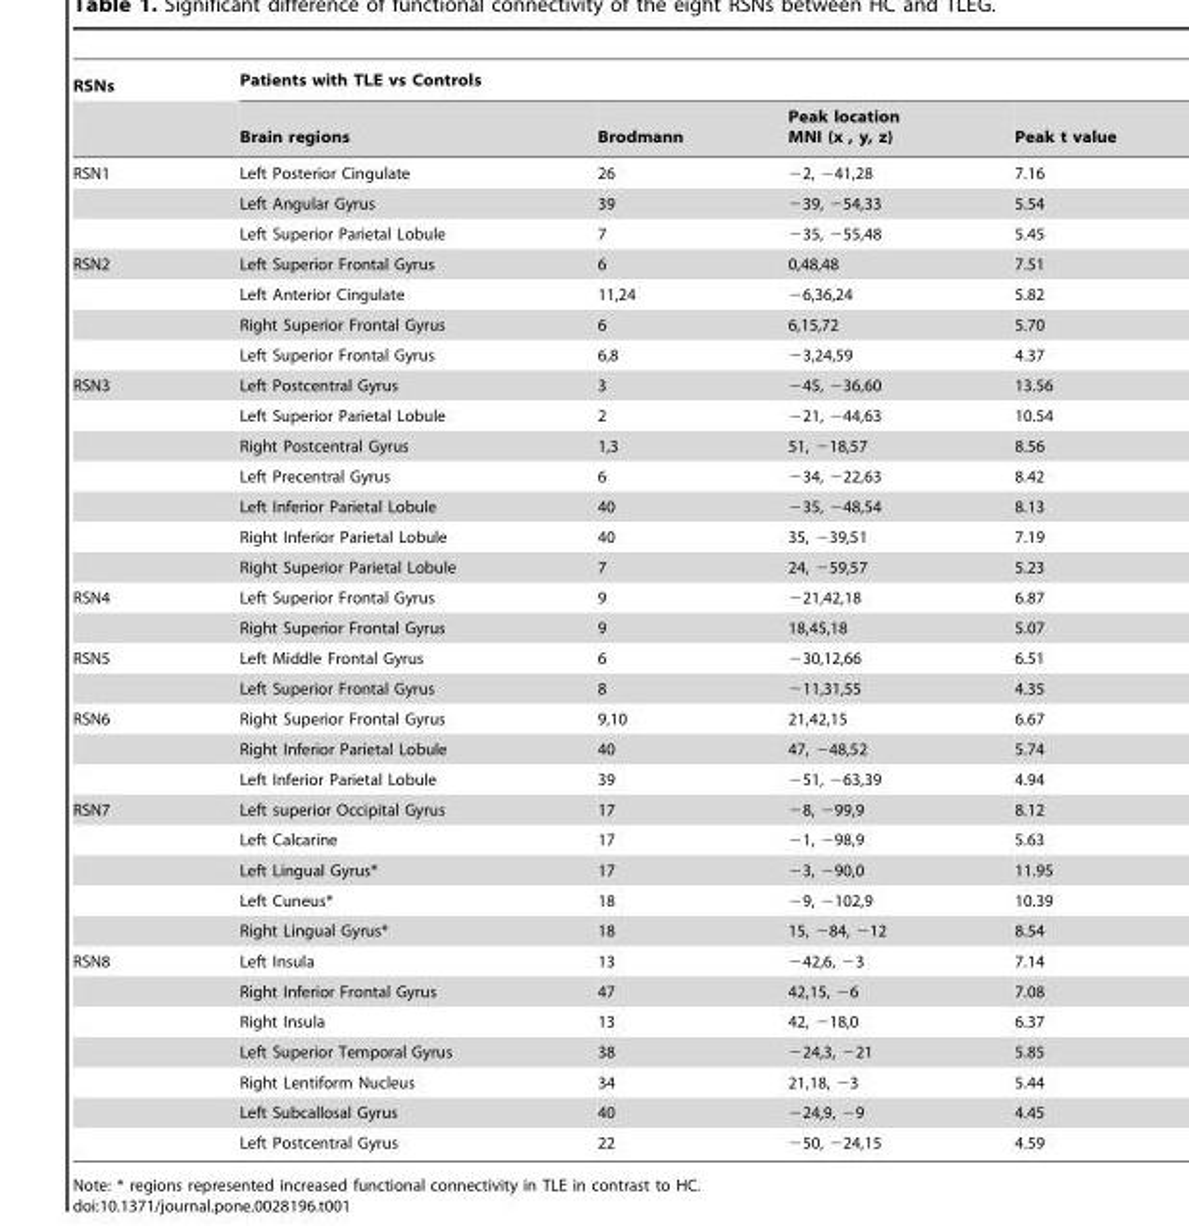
<table><thead><tr><td rowspan="2">RSNs</td><td colspan="4">Patients with TLE vs Controls</td></tr><tr><td>Brain regions</td><td>Brodmann</td><td>Peak location MNI (x , y, z)</td><td>Peak t value</td></tr></thead><tbody><tr><td rowspan="3">RSN1</td><td>Left Posterior Cingulate</td><td>26</td><td>−2, −41,28</td><td>7.16</td></tr><tr><td>Left Angular Gyrus</td><td>39</td><td>−39, −54,33</td><td>5.54</td></tr><tr><td>Left Superior Parietal Lobule</td><td>7</td><td>−35, −55,48</td><td>5.45</td></tr><tr><td rowspan="4">RSN2</td><td>Left Superior Frontal Gyrus</td><td>6</td><td>0,48,48</td><td>7.51</td></tr><tr><td>Left Anterior Cingulate</td><td>11,24</td><td>−6,36,24</td><td>5.82</td></tr><tr><td>Right Superior Frontal Gyrus</td><td>6</td><td>6,15,72</td><td>5.70</td></tr><tr><td>Left Superior Frontal Gyrus</td><td>6,8</td><td>−3,24,59</td><td>4.37</td></tr><tr><td rowspan="7">RSN3</td><td>Left Postcentral Gyrus</td><td>3</td><td>−45, −36,60</td><td>13.56</td></tr><tr><td>Left Superior Parietal Lobule</td><td>2</td><td>−21, −44,63</td><td>10.54</td></tr><tr><td>Right Postcentral Gyrus</td><td>1,3</td><td>51, −18,57</td><td>8.56</td></tr><tr><td>Left Precentral Gyrus</td><td>6</td><td>−34, −22,63</td><td>8.42</td></tr><tr><td>Left Inferior Parietal Lobule</td><td>40</td><td>−35, −48,54</td><td>8.13</td></tr><tr><td>Right Inferior Parietal Lobule</td><td>40</td><td>35, −39,51</td><td>7.19</td></tr><tr><td>Right Superior Parietal Lobule</td><td>7</td><td>24, −59,57</td><td>5.23</td></tr><tr><td rowspan="2">RSN4</td><td>Left Superior Frontal Gyrus</td><td>9</td><td>−21,42,18</td><td>6.87</td></tr><tr><td>Right Superior Frontal Gyrus</td><td>9</td><td>18,45,18</td><td>5.07</td></tr><tr><td rowspan="2">RSN5</td><td>Left Middle Frontal Gyrus</td><td>6</td><td>−30,12,66</td><td>6.51</td></tr><tr><td>Left Superior Frontal Gyrus</td><td>8</td><td>−11,31,55</td><td>4.35</td></tr><tr><td rowspan="3">RSN6</td><td>Right Superior Frontal Gyrus</td><td>9,10</td><td>21,42,15</td><td>6.67</td></tr><tr><td>Right Inferior Parietal Lobule</td><td>40</td><td>47, −48,52</td><td>5.74</td></tr><tr><td>Left Inferior Parietal Lobule</td><td>39</td><td>−51, −63,39</td><td>4.94</td></tr><tr><td rowspan="5">RSN7</td><td>Left superior Occipital Gyrus</td><td>17</td><td>−8, −99,9</td><td>8.12</td></tr><tr><td>Left Calcarine</td><td>17</td><td>−1, −98,9</td><td>5.63</td></tr><tr><td>Left Lingual Gyrus*</td><td>17</td><td>−3, −90,0</td><td>11.95</td></tr><tr><td>Left Cuneus*</td><td>18</td><td>−9, −102,9</td><td>10.39</td></tr><tr><td>Right Lingual Gyrus*</td><td>18</td><td>15, −84, −12</td><td>8.54</td></tr><tr><td rowspan="7">RSN8</td><td>Left Insula</td><td>13</td><td>−42,6, −3</td><td>7.14</td></tr><tr><td>Right Inferior Frontal Gyrus</td><td>47</td><td>42,15, −6</td><td>7.08</td></tr><tr><td>Right Insula</td><td>13</td><td>42, −18,0</td><td>6.37</td></tr><tr><td>Left Superior Temporal Gyrus</td><td>38</td><td>−24,3, −21</td><td>5.85</td></tr><tr><td>Right Lentiform Nucleus</td><td>34</td><td>21,18, −3</td><td>5.44</td></tr><tr><td>Left Subcallosal Gyrus</td><td>40</td><td>−24,9, −9</td><td>4.45</td></tr><tr><td>Left Postcentral Gyrus</td><td>22</td><td>−50, −24,15</td><td>4.59</td></tr></tbody></table>